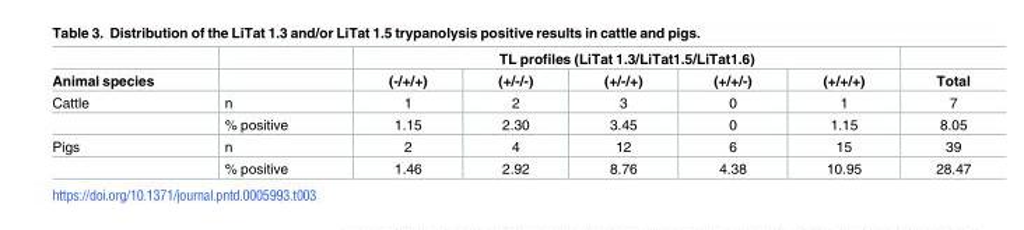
<table><thead><tr><td rowspan="2">Animal species</td><td rowspan="2"></td><td colspan="5">TL profiles (LiTat 1.3/LiTat1.5/LiTat1.6)</td><td rowspan="2">Total</td></tr><tr><td>(-/+/+)</td><td>(+/-/-)</td><td>(+/-/+)</td><td>(+/+/-)</td><td>(+/+/+)</td></tr></thead><tbody><tr><td rowspan="2">Cattle</td><td>n</td><td>1</td><td>2</td><td>3</td><td>0</td><td>1</td><td>7</td></tr><tr><td>% positive</td><td>1.15</td><td>2.30</td><td>3.45</td><td>0</td><td>1.15</td><td>8.05</td></tr><tr><td rowspan="2">Pigs</td><td>n</td><td>2</td><td>4</td><td>12</td><td>6</td><td>15</td><td>39</td></tr><tr><td>% positive</td><td>1.46</td><td>2.92</td><td>8.76</td><td>4.38</td><td>10.95</td><td>28.47</td></tr></tbody></table>